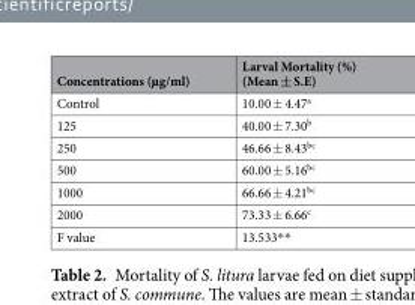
<table><thead><tr><td>Concentrations (µg/ml)</td><td>Larval Mortality (%) (Mean ± S.E)</td></tr></thead><tbody><tr><td>Control</td><td>10.00 ± 4.47<sup>a</sup></td></tr><tr><td>125</td><td>40.00 ± 7.30<sup>b</sup></td></tr><tr><td>250</td><td>46.66 ± 8.43<sup>bc</sup></td></tr><tr><td>500</td><td>60.00 ± 5.16<sup>bc</sup></td></tr><tr><td>1000</td><td>66.66 ± 4.21<sup>bc</sup></td></tr><tr><td>2000</td><td>73.33 ± 6.66<sup>c</sup></td></tr><tr><td>F value</td><td>13.533**</td></tr></tbody></table>